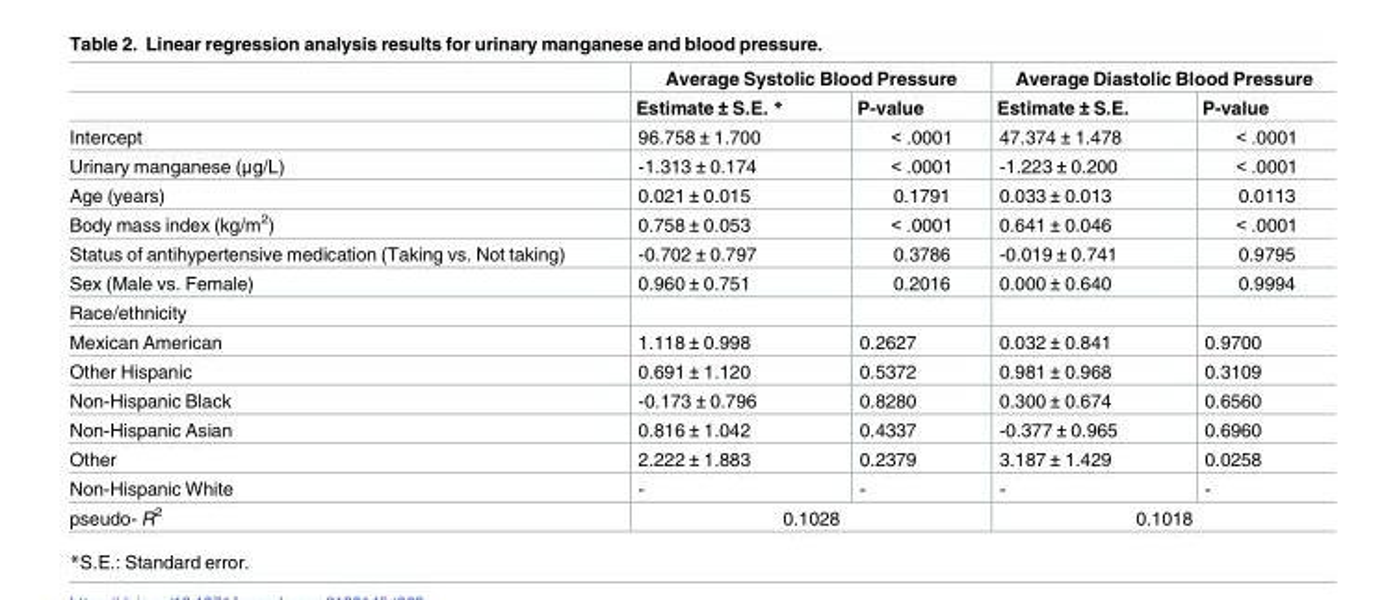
<table><thead><tr><td rowspan="2"></td><td colspan="2">Average Systolic Blood Pressure</td><td colspan="2">Average Diastolic Blood Pressure</td></tr><tr><td>Estimate ± S.E. *</td><td>P-value</td><td>Estimate ± S.E.</td><td>P-value</td></tr></thead><tbody><tr><td>Intercept</td><td>96.758 ± 1.700</td><td>&lt; .0001</td><td>47.374 ± 1.478</td><td>&lt; .0001</td></tr><tr><td>Urinary manganese (μg/L)</td><td>-1.313 ± 0.174</td><td>&lt; .0001</td><td>-1.223 ± 0.200</td><td>&lt; .0001</td></tr><tr><td>Age (years)</td><td>0.021 ± 0.015</td><td>0.1791</td><td>0.033 ± 0.013</td><td>0.0113</td></tr><tr><td>Body mass index (kg/m<sup>2</sup>)</td><td>0.758 ± 0.053</td><td>&lt; .0001</td><td>0.641 ± 0.046</td><td>&lt; .0001</td></tr><tr><td>Status of antihypertensive medication (Taking vs. Not taking)</td><td>-0.702 ± 0.797</td><td>0.3786</td><td>-0.019 ± 0.741</td><td>0.9795</td></tr><tr><td>Sex (Male vs. Female)</td><td>0.960 ± 0.751</td><td>0.2016</td><td>0.000 ± 0.640</td><td>0.9994</td></tr><tr><td colspan="5">Race/ethnicity</td></tr><tr><td>Mexican American</td><td>1.118 ± 0.998</td><td>0.2627</td><td>0.032 ± 0.841</td><td>0.9700</td></tr><tr><td>Other Hispanic</td><td>0.691 ± 1.120</td><td>0.5372</td><td>0.981 ± 0.968</td><td>0.3109</td></tr><tr><td>Non-Hispanic Black</td><td>-0.173 ± 0.796</td><td>0.8280</td><td>0.300 ± 0.674</td><td>0.6560</td></tr><tr><td>Non-Hispanic Asian</td><td>0.816 ± 1.042</td><td>0.4337</td><td>-0.377 ± 0.965</td><td>0.6960</td></tr><tr><td>Other</td><td>2.222 ± 1.883</td><td>0.2379</td><td>3.187 ± 1.429</td><td>0.0258</td></tr><tr><td>Non-Hispanic White</td><td>-</td><td>-</td><td>-</td><td>-</td></tr><tr><td>pseudo- R<sup>2</sup></td><td colspan="2">0.1028</td><td colspan="2">0.1018</td></tr></tbody></table>